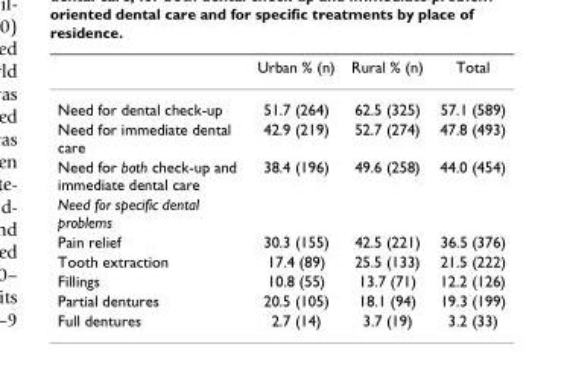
<table><thead><tr><td></td><td>Urban % (n)</td><td>Rural % (n)</td><td>Total</td></tr></thead><tbody><tr><td>Need for dental check-up</td><td>51.7 (264)</td><td>62.5 (325)</td><td>57.1 (589)</td></tr><tr><td>Need for immediate dental care</td><td>42.9 (219)</td><td>52.7 (274)</td><td>47.8 (493)</td></tr><tr><td>Need for both check-up and immediate dental care</td><td>38.4 (196)</td><td>49.6 (258)</td><td>44.0 (454)</td></tr><tr><td colspan="4">Need for specific dental problems</td></tr><tr><td>Pain relief</td><td>30.3 (155)</td><td>42.5 (221)</td><td>36.5 (376)</td></tr><tr><td>Tooth extraction</td><td>17.4 (89)</td><td>25.5 (133)</td><td>21.5 (222)</td></tr><tr><td>Fillings</td><td>10.8 (55)</td><td>13.7 (71)</td><td>12.2 (126)</td></tr><tr><td>Partial dentures</td><td>20.5 (105)</td><td>18.1 (94)</td><td>19.3 (199)</td></tr><tr><td>Full dentures</td><td>2.7 (14)</td><td>3.7 (19)</td><td>3.2 (33)</td></tr></tbody></table>